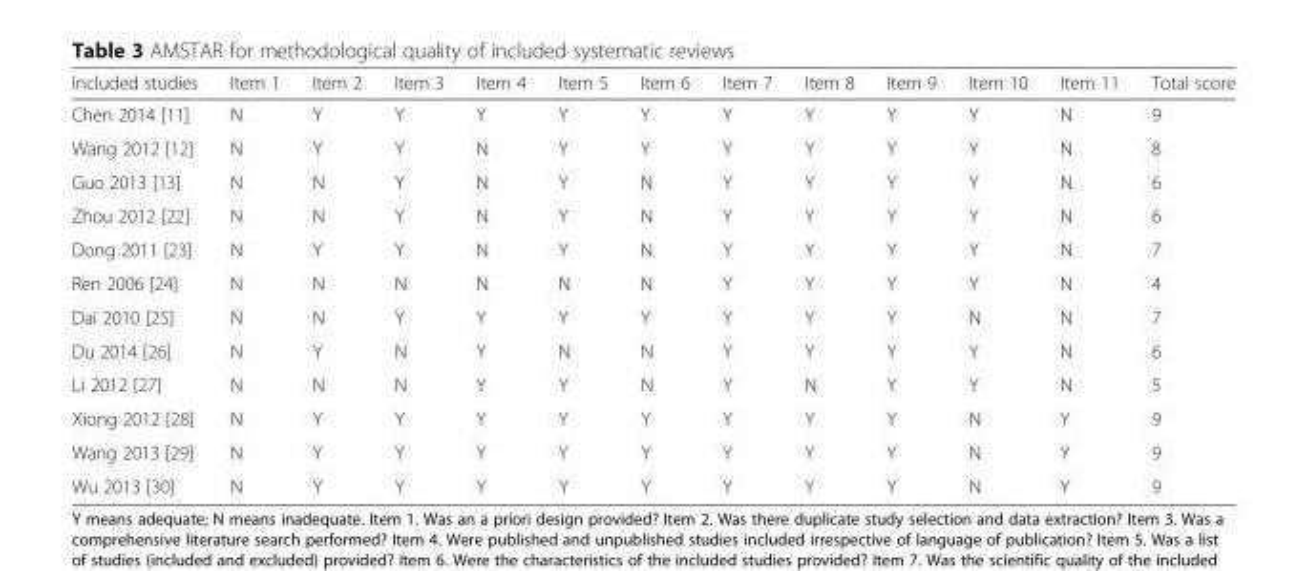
<table><thead><tr><td>Included studies</td><td>Item 1</td><td>Item 2</td><td>Item 3</td><td>Item 4</td><td>Item 5</td><td>Item 6</td><td>Item 7</td><td>Item 8</td><td>Item 9</td><td>Item 10</td><td>Item 11</td><td>Total score</td></tr></thead><tbody><tr><td>Chen 2014 [11]</td><td>N</td><td>Y</td><td>Y</td><td>Y</td><td>Y</td><td>Y</td><td>Y</td><td>Y</td><td>Y</td><td>Y</td><td>N</td><td>9</td></tr><tr><td>Wang 2012 [12]</td><td>N</td><td>Y</td><td>Y</td><td>N</td><td>Y</td><td>Y</td><td>Y</td><td>Y</td><td>Y</td><td>Y</td><td>N</td><td>8</td></tr><tr><td>Guo 2013 [13]</td><td>N</td><td>N</td><td>Y</td><td>N</td><td>Y</td><td>N</td><td>Y</td><td>Y</td><td>Y</td><td>Y</td><td>N</td><td>6</td></tr><tr><td>Zhou 2012 [22]</td><td>N</td><td>N</td><td>Y</td><td>N</td><td>Y</td><td>N</td><td>Y</td><td>Y</td><td>Y</td><td>Y</td><td>N</td><td>6</td></tr><tr><td>Dong 2011 [23]</td><td>N</td><td>Y</td><td>Y</td><td>N</td><td>Y</td><td>N</td><td>Y</td><td>Y</td><td>Y</td><td>Y</td><td>N</td><td>7</td></tr><tr><td>Ren 2006 [24]</td><td>N</td><td>N</td><td>N</td><td>N</td><td>N</td><td>N</td><td>Y</td><td>Y</td><td>Y</td><td>Y</td><td>N</td><td>4</td></tr><tr><td>Dai 2010 [25]</td><td>N</td><td>N</td><td>Y</td><td>Y</td><td>Y</td><td>Y</td><td>Y</td><td>Y</td><td>Y</td><td>N</td><td>N</td><td>7</td></tr><tr><td>Du 2014 [26]</td><td>N</td><td>Y</td><td>N</td><td>Y</td><td>N</td><td>N</td><td>Y</td><td>Y</td><td>Y</td><td>Y</td><td>N</td><td>6</td></tr><tr><td>Li 2012 [27]</td><td>N</td><td>N</td><td>N</td><td>Y</td><td>Y</td><td>N</td><td>Y</td><td>N</td><td>Y</td><td>Y</td><td>N</td><td>5</td></tr><tr><td>Xiong 2012 [28]</td><td>N</td><td>Y</td><td>Y</td><td>Y</td><td>Y</td><td>Y</td><td>Y</td><td>Y</td><td>Y</td><td>N</td><td>Y</td><td>9</td></tr><tr><td>Wang 2013 [29]</td><td>N</td><td>Y</td><td>Y</td><td>Y</td><td>Y</td><td>Y</td><td>Y</td><td>Y</td><td>Y</td><td>N</td><td>Y</td><td>9</td></tr><tr><td>Wu 2013 [30]</td><td>N</td><td>Y</td><td>Y</td><td>Y</td><td>Y</td><td>Y</td><td>Y</td><td>Y</td><td>Y</td><td>N</td><td>Y</td><td>9</td></tr></tbody></table>